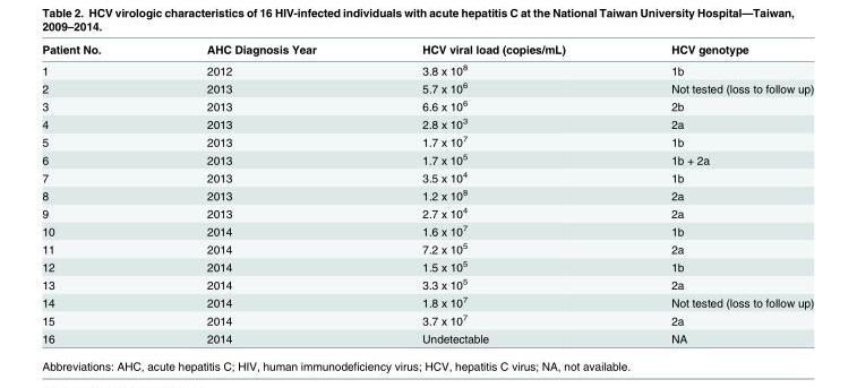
<table><thead><tr><td>Patient No.</td><td>AHC Diagnosis Year</td><td>HCV viral load (copies/mL)</td><td>HCV genotype</td></tr></thead><tbody><tr><td>1</td><td>2012</td><td>3.8 x 10<sup>8</sup></td><td>1b</td></tr><tr><td>2</td><td>2013</td><td>5.7 x 10<sup>6</sup></td><td>Not tested (loss to follow up)</td></tr><tr><td>3</td><td>2013</td><td>6.6 x 10<sup>6</sup></td><td>2b</td></tr><tr><td>4</td><td>2013</td><td>2.8 x 10<sup>3</sup></td><td>2a</td></tr><tr><td>5</td><td>2013</td><td>1.7 x 10<sup>7</sup></td><td>1b</td></tr><tr><td>6</td><td>2013</td><td>1.7 x 10<sup>5</sup></td><td>1b + 2a</td></tr><tr><td>7</td><td>2013</td><td>3.5 x 10<sup>4</sup></td><td>1b</td></tr><tr><td>8</td><td>2013</td><td>1.2 x 10<sup>8</sup></td><td>2a</td></tr><tr><td>9</td><td>2013</td><td>2.7 x 10<sup>4</sup></td><td>2a</td></tr><tr><td>10</td><td>2014</td><td>1.6 x 10<sup>7</sup></td><td>1b</td></tr><tr><td>11</td><td>2014</td><td>7.2 x 10<sup>5</sup></td><td>2a</td></tr><tr><td>12</td><td>2014</td><td>1.5 x 10<sup>5</sup></td><td>1b</td></tr><tr><td>13</td><td>2014</td><td>3.3 x 10<sup>5</sup></td><td>2a</td></tr><tr><td>14</td><td>2014</td><td>1.8 x 10<sup>7</sup></td><td>Not tested (loss to follow up)</td></tr><tr><td>15</td><td>2014</td><td>3.7 x 10<sup>7</sup></td><td>2a</td></tr><tr><td>16</td><td>2014</td><td>Undetectable</td><td>NA</td></tr></tbody></table>